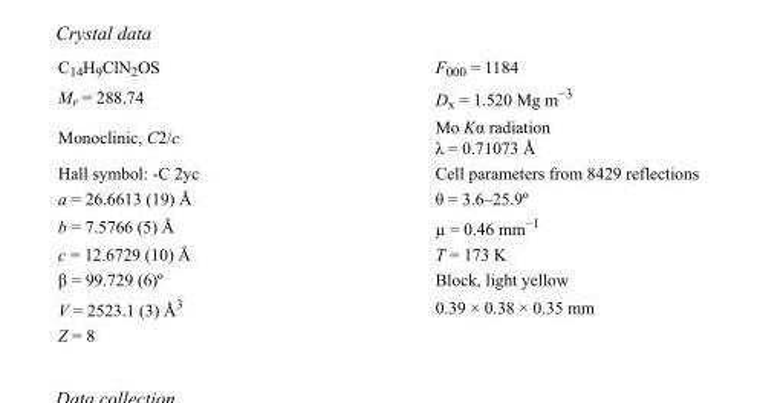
<table><tbody><tr><td>C<sub>14</sub>H<sub>9</sub>ClN<sub>2</sub>OS</td><td>F000 = 1184</td></tr><tr><td>M<sub>r</sub> = 288.74</td><td>D<sub>x</sub> = 1.520 Mg m<sup>−3</sup></td></tr><tr><td>Monoclinic, C2/c</td><td>Mo Kα radiation λ = 0.71073 Å</td></tr><tr><td>Hall symbol: -C 2yc</td><td>Cell parameters from 8429 reflections</td></tr><tr><td>a = 26.6613 (19) Å</td><td>θ = 3.6–25.9º</td></tr><tr><td>b = 7.5766 (5) Å</td><td>µ = 0.46 mm<sup>−1</sup></td></tr><tr><td>c = 12.6729 (10) Å</td><td>T = 173 K</td></tr><tr><td>β = 99.729 (6)º</td><td>Block, light yellow</td></tr><tr><td>V = 2523.1 (3) Å<sup>3</sup></td><td>0.39 × 0.38 × 0.35 mm</td></tr><tr><td>Z = 8</td><td></td></tr></tbody></table>